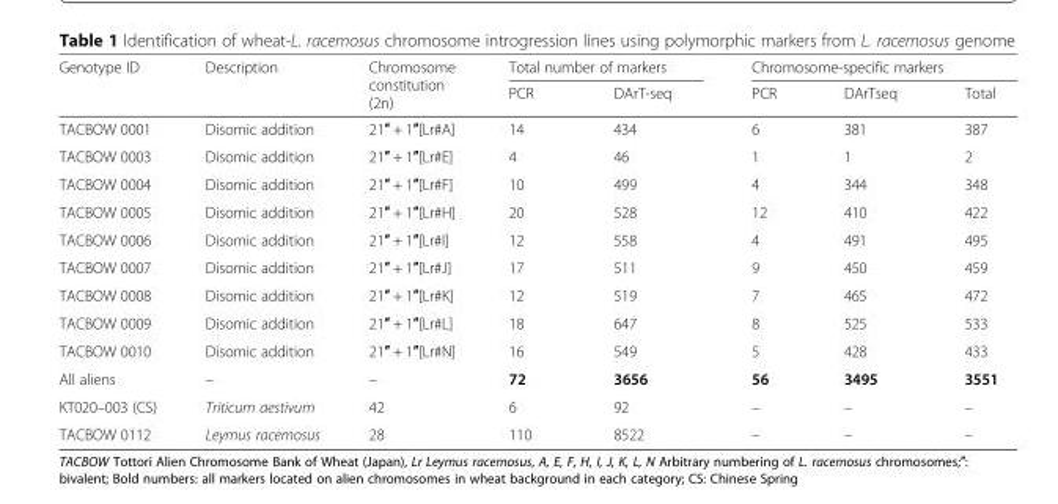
<table><thead><tr><td rowspan="2">Genotype ID</td><td rowspan="2">Description</td><td rowspan="2">Chromosome constitution (2n)</td><td colspan="2">Total number of markers</td><td colspan="3">Chromosome-specific markers</td></tr><tr><td>PCR</td><td>DArT-seq</td><td>PCR</td><td>DArTseq</td><td>Total</td></tr></thead><tbody><tr><td>TACBOW 0001</td><td>Disomic addition</td><td>21″ + 1″[Lr#A]</td><td>14</td><td>434</td><td>6</td><td>381</td><td>387</td></tr><tr><td>TACBOW 0003</td><td>Disomic addition</td><td>21″ + 1″[Lr#E]</td><td>4</td><td>46</td><td>1</td><td>1</td><td>2</td></tr><tr><td>TACBOW 0004</td><td>Disomic addition</td><td>21″ + 1″[Lr#F]</td><td>10</td><td>499</td><td>4</td><td>344</td><td>348</td></tr><tr><td>TACBOW 0005</td><td>Disomic addition</td><td>21″ + 1″[Lr#H]</td><td>20</td><td>528</td><td>12</td><td>410</td><td>422</td></tr><tr><td>TACBOW 0006</td><td>Disomic addition</td><td>21″ + 1″[Lr#I]</td><td>12</td><td>558</td><td>4</td><td>491</td><td>495</td></tr><tr><td>TACBOW 0007</td><td>Disomic addition</td><td>21″ + 1″[Lr#J]</td><td>17</td><td>511</td><td>9</td><td>450</td><td>459</td></tr><tr><td>TACBOW 0008</td><td>Disomic addition</td><td>21″ + 1″[Lr#K]</td><td>12</td><td>519</td><td>7</td><td>465</td><td>472</td></tr><tr><td>TACBOW 0009</td><td>Disomic addition</td><td>21″ + 1″[Lr#L]</td><td>18</td><td>647</td><td>8</td><td>525</td><td>533</td></tr><tr><td>TACBOW 0010</td><td>Disomic addition</td><td>21″ + 1″[Lr#N]</td><td>16</td><td>549</td><td>5</td><td>428</td><td>433</td></tr><tr><td>All aliens</td><td>–</td><td>–</td><td>72</td><td>3656</td><td>56</td><td>3495</td><td>3551</td></tr><tr><td>KT020–003 (CS)</td><td>Triticum aestivum</td><td>42</td><td>6</td><td>92</td><td>–</td><td>–</td><td>–</td></tr><tr><td>TACBOW 0112</td><td>Leymus racemosus</td><td>28</td><td>110</td><td>8522</td><td>–</td><td>–</td><td>–</td></tr></tbody></table>